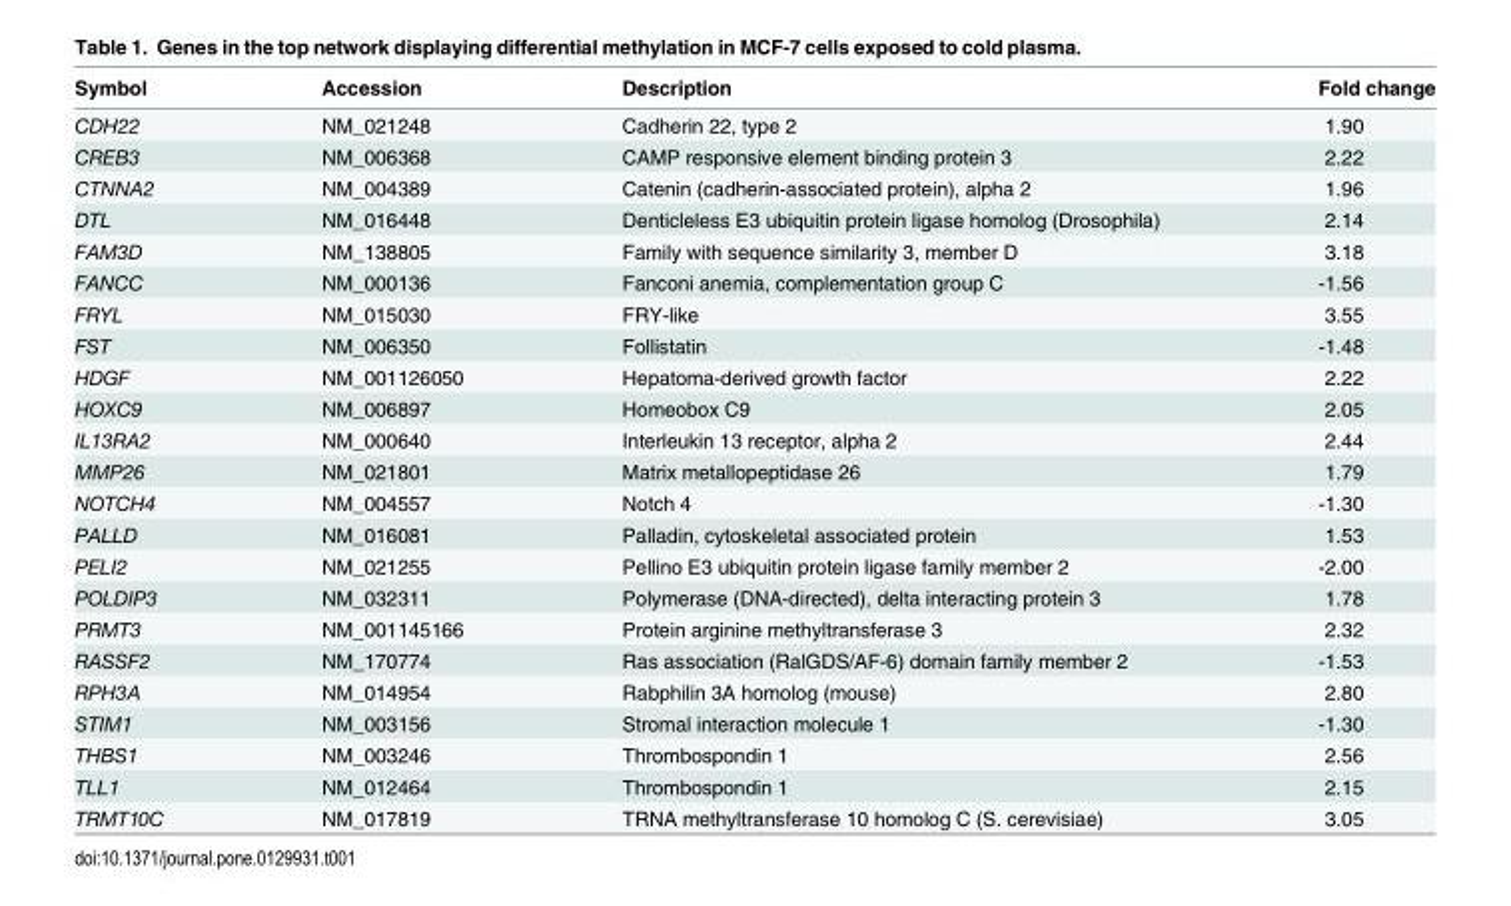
<table><thead><tr><td>Symbol</td><td>Accession</td><td>Description</td><td>Fold change</td></tr></thead><tbody><tr><td>CDH22</td><td>NM_021248</td><td>Cadherin 22, type 2</td><td>1.90</td></tr><tr><td>CREB3</td><td>NM_006368</td><td>CAMP responsive element binding protein 3</td><td>2.22</td></tr><tr><td>CTNNA2</td><td>NM_004389</td><td>Catenin (cadherin-associated protein), alpha 2</td><td>1.96</td></tr><tr><td>DTL</td><td>NM_016448</td><td>Denticleless E3 ubiquitin protein ligase homolog (Drosophila)</td><td>2.14</td></tr><tr><td>FAM3D</td><td>NM_138805</td><td>Family with sequence similarity 3, member D</td><td>3.18</td></tr><tr><td>FANCC</td><td>NM_000136</td><td>Fanconi anemia, complementation group C</td><td>-1.56</td></tr><tr><td>FRYL</td><td>NM_015030</td><td>FRY-like</td><td>3.55</td></tr><tr><td>FST</td><td>NM_006350</td><td>Follistatin</td><td>-1.48</td></tr><tr><td>HDGF</td><td>NM_001126050</td><td>Hepatoma-derived growth factor</td><td>2.22</td></tr><tr><td>HOXC9</td><td>NM_006897</td><td>Homeobox C9</td><td>2.05</td></tr><tr><td>IL13RA2</td><td>NM_000640</td><td>Interleukin 13 receptor, alpha 2</td><td>2.44</td></tr><tr><td>MMP26</td><td>NM_021801</td><td>Matrix metallopeptidase 26</td><td>1.79</td></tr><tr><td>NOTCH4</td><td>NM_004557</td><td>Notch 4</td><td>-1.30</td></tr><tr><td>PALLD</td><td>NM_016081</td><td>Palladin, cytoskeletal associated protein</td><td>1.53</td></tr><tr><td>PELI2</td><td>NM_021255</td><td>Pellino E3 ubiquitin protein ligase family member 2</td><td>-2.00</td></tr><tr><td>POLDIP3</td><td>NM_032311</td><td>Polymerase (DNA-directed), delta interacting protein 3</td><td>1.78</td></tr><tr><td>PRMT3</td><td>NM_001145166</td><td>Protein arginine methyltransferase 3</td><td>2.32</td></tr><tr><td>RASSF2</td><td>NM_170774</td><td>Ras association (RalGDS/AF-6) domain family member 2</td><td>-1.53</td></tr><tr><td>RPH3A</td><td>NM_014954</td><td>Rabphilin 3A homolog (mouse)</td><td>2.80</td></tr><tr><td>STIM1</td><td>NM_003156</td><td>Stromal interaction molecule 1</td><td>-1.30</td></tr><tr><td>THBS1</td><td>NM_003246</td><td>Thrombospondin 1</td><td>2.56</td></tr><tr><td>TLL1</td><td>NM_012464</td><td>Thrombospondin 1</td><td>2.15</td></tr><tr><td>TRMT10C</td><td>NM_017819</td><td>TRNA methyltransferase 10 homolog C (S. cerevisiae)</td><td>3.05</td></tr></tbody></table>